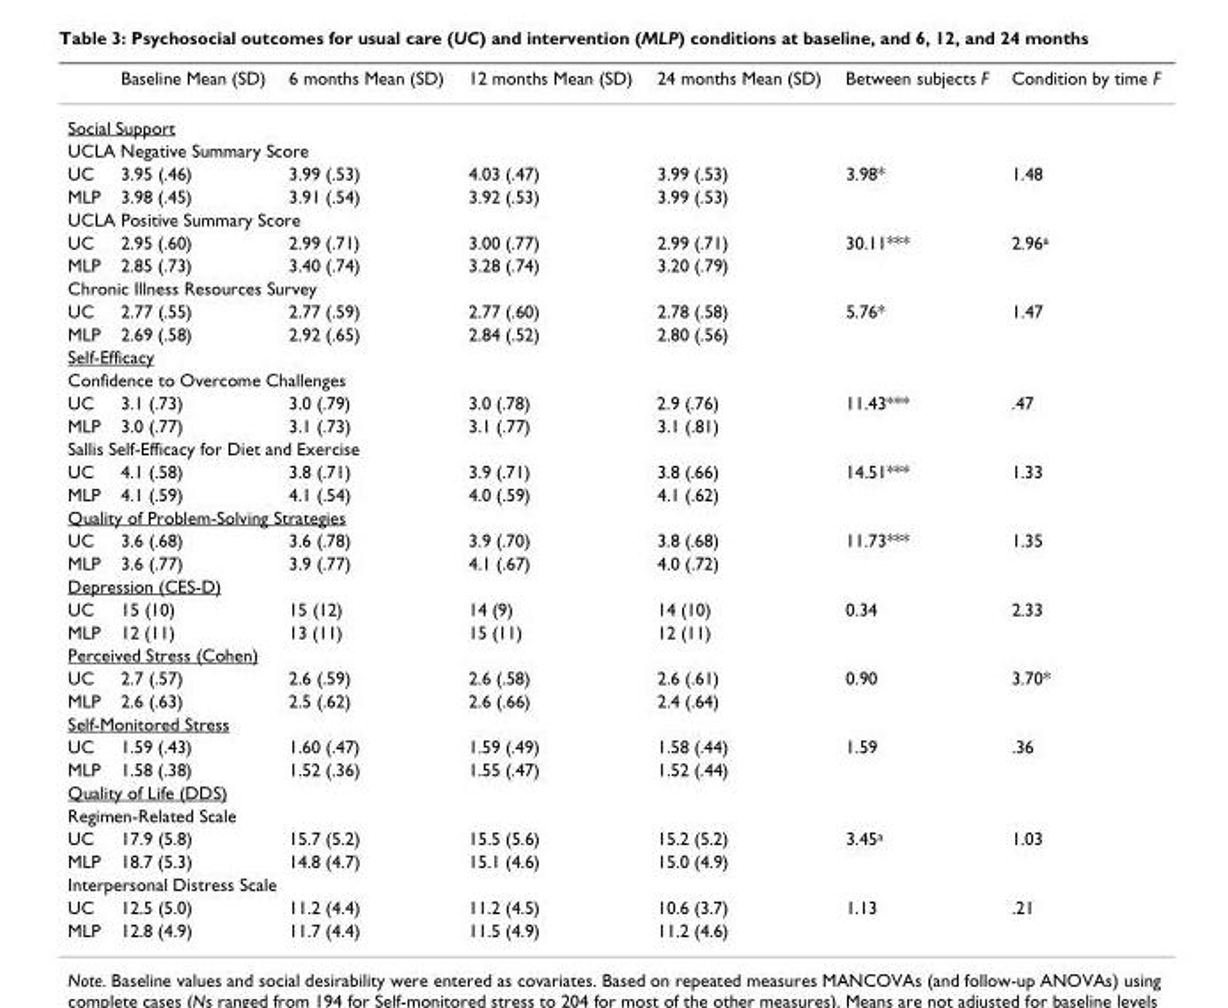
<table><thead><tr><td></td><td>Baseline Mean (SD)</td><td>6 months Mean (SD)</td><td>12 months Mean (SD)</td><td>24 months Mean (SD)</td><td>Between subjects F</td><td>Condition by time F</td></tr></thead><tbody><tr><td colspan="7">Social Support</td></tr><tr><td colspan="7">UCLA Negative Summary Score</td></tr><tr><td>UC</td><td>3.95 (.46)</td><td>3.99 (.53)</td><td>4.03 (.47)</td><td>3.99 (.53)</td><td>3.98*</td><td>1.48</td></tr><tr><td>MLP</td><td>3.98 (.45)</td><td>3.91 (.54)</td><td>3.92 (.53)</td><td>3.99 (.53)</td><td></td><td></td></tr><tr><td colspan="7">UCLA Positive Summary Score</td></tr><tr><td>UC</td><td>2.95 (.60)</td><td>2.99 (.71)</td><td>3.00 (.77)</td><td>2.99 (.71)</td><td>30.11***</td><td>2.96<sup>a</sup></td></tr><tr><td>MLP</td><td>2.85 (.73)</td><td>3.40 (.74)</td><td>3.28 (.74)</td><td>3.20 (.79)</td><td></td><td></td></tr><tr><td colspan="7">Chronic Illness Resources Survey</td></tr><tr><td>UC</td><td>2.77 (.55)</td><td>2.77 (.59)</td><td>2.77 (.60)</td><td>2.78 (.58)</td><td>5.76*</td><td>1.47</td></tr><tr><td>MLP</td><td>2.69 (.58)</td><td>2.92 (.65)</td><td>2.84 (.52)</td><td>2.80 (.56)</td><td></td><td></td></tr><tr><td colspan="7">Self-Efficacy</td></tr><tr><td colspan="7">Confidence to Overcome Challenges</td></tr><tr><td>UC</td><td>3.1 (.73)</td><td>3.0 (.79)</td><td>3.0 (.78)</td><td>2.9 (.76)</td><td>11.43***</td><td>.47</td></tr><tr><td>MLP</td><td>3.0 (.77)</td><td>3.1 (.73)</td><td>3.1 (.77)</td><td>3.1 (.81)</td><td></td><td></td></tr><tr><td colspan="7">Sallis Self-Efficacy for Diet and Exercise</td></tr><tr><td>UC</td><td>4.1 (.58)</td><td>3.8 (.71)</td><td>3.9 (.71)</td><td>3.8 (.66)</td><td>14.51***</td><td>1.33</td></tr><tr><td>MLP</td><td>4.1 (.59)</td><td>4.1 (.54)</td><td>4.0 (.59)</td><td>4.1 (.62)</td><td></td><td></td></tr><tr><td colspan="7">Quality of Problem-Solving Strategies</td></tr><tr><td>UC</td><td>3.6 (.68)</td><td>3.6 (.78)</td><td>3.9 (.70)</td><td>3.8 (.68)</td><td>11.73***</td><td>1.35</td></tr><tr><td>MLP</td><td>3.6 (.77)</td><td>3.9 (.77)</td><td>4.1 (.67)</td><td>4.0 (.72)</td><td></td><td></td></tr><tr><td colspan="7">Depression (CES-D)</td></tr><tr><td>UC</td><td>15 (10)</td><td>15 (12)</td><td>14 (9)</td><td>14 (10)</td><td>0.34</td><td>2.33</td></tr><tr><td>MLP</td><td>12 (11)</td><td>13 (11)</td><td>15 (11)</td><td>12 (11)</td><td></td><td></td></tr><tr><td colspan="7">Perceived Stress (Cohen)</td></tr><tr><td>UC</td><td>2.7 (.57)</td><td>2.6 (.59)</td><td>2.6 (.58)</td><td>2.6 (.61)</td><td>0.90</td><td>3.70*</td></tr><tr><td>MLP</td><td>2.6 (.63)</td><td>2.5 (.62)</td><td>2.6 (.66)</td><td>2.4 (.64)</td><td></td><td></td></tr><tr><td colspan="7">Self-Monitored Stress</td></tr><tr><td>UC</td><td>1.59 (.43)</td><td>1.60 (.47)</td><td>1.59 (.49)</td><td>1.58 (.44)</td><td>1.59</td><td>.36</td></tr><tr><td>MLP</td><td>1.58 (.38)</td><td>1.52 (.36)</td><td>1.55 (.47)</td><td>1.52 (.44)</td><td></td><td></td></tr><tr><td colspan="7">Quality of Life (DDS)</td></tr><tr><td colspan="7">Regimen-Related Scale</td></tr><tr><td>UC</td><td>17.9 (5.8)</td><td>15.7 (5.2)</td><td>15.5 (5.6)</td><td>15.2 (5.2)</td><td>3.45<sup>a</sup></td><td>1.03</td></tr><tr><td>MLP</td><td>18.7 (5.3)</td><td>14.8 (4.7)</td><td>15.1 (4.6)</td><td>15.0 (4.9)</td><td></td><td></td></tr><tr><td colspan="7">Interpersonal Distress Scale</td></tr><tr><td>UC</td><td>12.5 (5.0)</td><td>11.2 (4.4)</td><td>11.2 (4.5)</td><td>10.6 (3.7)</td><td>1.13</td><td>.21</td></tr><tr><td>MLP</td><td>12.8 (4.9)</td><td>11.7 (4.4)</td><td>11.5 (4.9)</td><td>11.2 (4.6)</td><td></td><td></td></tr></tbody></table>